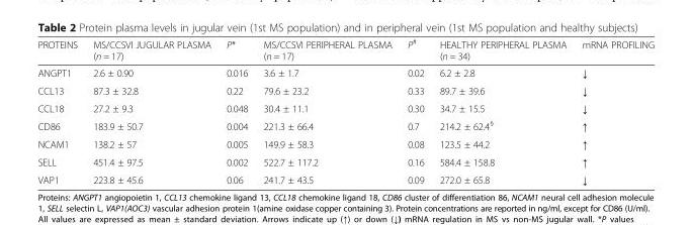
<table><thead><tr><td>PROTEINS</td><td>MS/CCSVI JUGULAR PLASMA (n = 17)</td><td>P*</td><td>MS/CCSVI PERIPHERAL PLASMA (n = 17)</td><td>P<sup>#</sup></td><td>HEALTHY PERIPHERAL PLASMA (n = 34)</td><td>mRNA PROFILING</td></tr></thead><tbody><tr><td>ANGPT1</td><td>2.6 ± 0.90</td><td>0.016</td><td>3.6 ± 1.7</td><td>0.02</td><td>6.2 ± 2.8</td><td>↓</td></tr><tr><td>CCL13</td><td>87.3 ± 32.8</td><td>0.22</td><td>79.6 ± 23.2</td><td>0.33</td><td>89.7 ± 39.6</td><td>↓</td></tr><tr><td>CCL18</td><td>27.2 ± 9.3</td><td>0.048</td><td>30.4 ± 11.1</td><td>0.30</td><td>34.7 ± 15.5</td><td>↓</td></tr><tr><td>CD86</td><td>183.9 ± 50.7</td><td>0.004</td><td>221.3 ± 66.4</td><td>0.7</td><td>214.2 ± 62.4<sup>§</sup></td><td>↑</td></tr><tr><td>NCAM1</td><td>138.2 ± 57</td><td>0.005</td><td>149.9 ± 58.3</td><td>0.08</td><td>123.5 ± 44.2</td><td>↑</td></tr><tr><td>SELL</td><td>451.4 ± 97.5</td><td>0.002</td><td>522.7 ± 117.2</td><td>0.16</td><td>584.4 ± 158.8</td><td>↑</td></tr><tr><td>VAP1</td><td>223.8 ± 45.6</td><td>0.06</td><td>241.7 ± 43.5</td><td>0.09</td><td>272.0 ± 65.8</td><td>↓</td></tr></tbody></table>